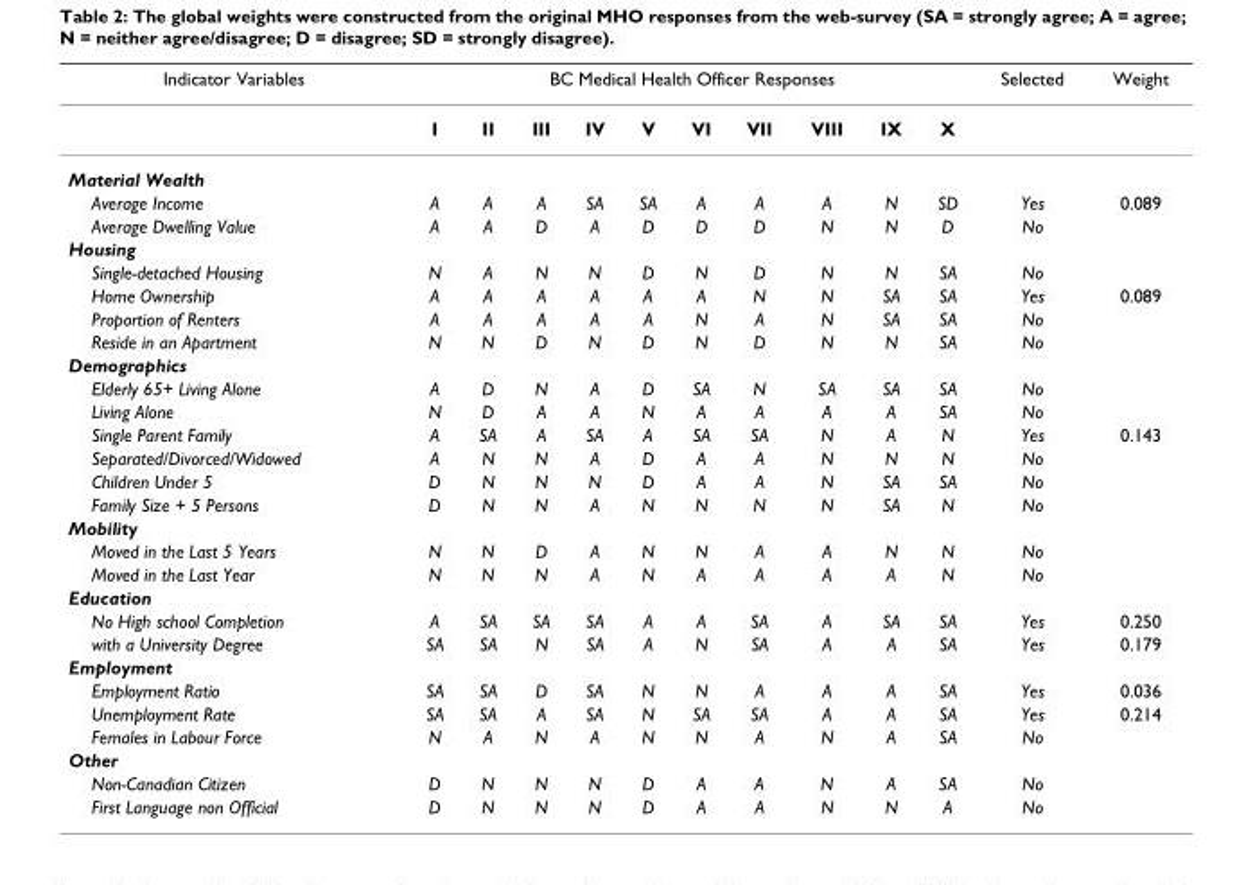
<table><thead><tr><td rowspan="2">Indicator Variables</td><td colspan="10">BC Medical Health Officer Responses</td><td rowspan="2">Selected</td><td rowspan="2">Weight</td></tr><tr><td>I</td><td>II</td><td>III</td><td>IV</td><td>V</td><td>VI</td><td>VII</td><td>VIII</td><td>IX</td><td>X</td></tr></thead><tbody><tr><td colspan="13">Material Wealth</td></tr><tr><td>Average Income</td><td>A</td><td>A</td><td>A</td><td>SA</td><td>SA</td><td>A</td><td>A</td><td>A</td><td>N</td><td>SD</td><td>Yes</td><td>0.089</td></tr><tr><td>Average Dwelling Value</td><td>A</td><td>A</td><td>D</td><td>A</td><td>D</td><td>D</td><td>D</td><td>N</td><td>N</td><td>D</td><td>No</td><td></td></tr><tr><td colspan="13">Housing</td></tr><tr><td>Single-detached Housing</td><td>N</td><td>A</td><td>N</td><td>N</td><td>D</td><td>N</td><td>D</td><td>N</td><td>N</td><td>SA</td><td>No</td><td></td></tr><tr><td>Home Ownership</td><td>A</td><td>A</td><td>A</td><td>A</td><td>A</td><td>A</td><td>N</td><td>N</td><td>SA</td><td>SA</td><td>Yes</td><td>0.089</td></tr><tr><td>Proportion of Renters</td><td>A</td><td>A</td><td>A</td><td>A</td><td>A</td><td>N</td><td>A</td><td>N</td><td>SA</td><td>SA</td><td>No</td><td></td></tr><tr><td>Reside in an Apartment</td><td>N</td><td>N</td><td>D</td><td>N</td><td>D</td><td>N</td><td>D</td><td>N</td><td>N</td><td>SA</td><td>No</td><td></td></tr><tr><td colspan="13">Demographics</td></tr><tr><td>Elderly 65+ Living Alone</td><td>A</td><td>D</td><td>N</td><td>A</td><td>D</td><td>SA</td><td>N</td><td>SA</td><td>SA</td><td>SA</td><td>No</td><td></td></tr><tr><td>Living Alone</td><td>N</td><td>D</td><td>A</td><td>A</td><td>N</td><td>A</td><td>A</td><td>A</td><td>A</td><td>SA</td><td>No</td><td></td></tr><tr><td>Single Parent Family</td><td>A</td><td>SA</td><td>A</td><td>SA</td><td>A</td><td>SA</td><td>SA</td><td>N</td><td>A</td><td>N</td><td>Yes</td><td>0.143</td></tr><tr><td>Separated/Divorced/Widowed</td><td>A</td><td>N</td><td>N</td><td>A</td><td>D</td><td>A</td><td>A</td><td>N</td><td>N</td><td>N</td><td>No</td><td></td></tr><tr><td>Children Under 5</td><td>D</td><td>N</td><td>N</td><td>N</td><td>D</td><td>A</td><td>A</td><td>N</td><td>SA</td><td>SA</td><td>No</td><td></td></tr><tr><td>Family Size + 5 Persons</td><td>D</td><td>N</td><td>N</td><td>A</td><td>N</td><td>N</td><td>N</td><td>N</td><td>SA</td><td>N</td><td>No</td><td></td></tr><tr><td colspan="13">Mobility</td></tr><tr><td>Moved in the Last 5 Years</td><td>N</td><td>N</td><td>D</td><td>A</td><td>N</td><td>N</td><td>A</td><td>A</td><td>N</td><td>N</td><td>No</td><td></td></tr><tr><td>Moved in the Last Year</td><td>N</td><td>N</td><td>N</td><td>A</td><td>N</td><td>A</td><td>A</td><td>A</td><td>A</td><td>N</td><td>No</td><td></td></tr><tr><td colspan="13">Education</td></tr><tr><td>No High school Completion</td><td>A</td><td>SA</td><td>SA</td><td>SA</td><td>A</td><td>A</td><td>SA</td><td>A</td><td>SA</td><td>SA</td><td>Yes</td><td>0.250</td></tr><tr><td>with a University Degree</td><td>SA</td><td>SA</td><td>N</td><td>SA</td><td>A</td><td>N</td><td>SA</td><td>A</td><td>A</td><td>SA</td><td>Yes</td><td>0.179</td></tr><tr><td colspan="13">Employment</td></tr><tr><td>Employment Ratio</td><td>SA</td><td>SA</td><td>D</td><td>SA</td><td>N</td><td>N</td><td>A</td><td>A</td><td>A</td><td>SA</td><td>Yes</td><td>0.036</td></tr><tr><td>Unemployment Rate</td><td>SA</td><td>SA</td><td>A</td><td>SA</td><td>N</td><td>SA</td><td>SA</td><td>A</td><td>A</td><td>SA</td><td>Yes</td><td>0.214</td></tr><tr><td>Females in Labour Force</td><td>N</td><td>A</td><td>N</td><td>A</td><td>N</td><td>N</td><td>A</td><td>N</td><td>A</td><td>SA</td><td>No</td><td></td></tr><tr><td colspan="13">Other</td></tr><tr><td>Non-Canadian Citizen</td><td>D</td><td>N</td><td>N</td><td>N</td><td>D</td><td>A</td><td>A</td><td>N</td><td>A</td><td>SA</td><td>No</td><td></td></tr><tr><td>First Language non Official</td><td>D</td><td>N</td><td>N</td><td>N</td><td>D</td><td>A</td><td>A</td><td>N</td><td>N</td><td>A</td><td>No</td><td></td></tr></tbody></table>